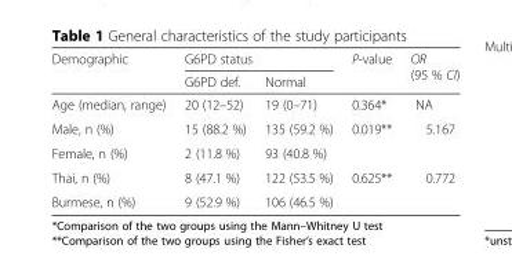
<table><thead><tr><td rowspan="2">Demographic</td><td colspan="2">G6PD status</td><td rowspan="2">P-value</td><td rowspan="2">OR (95 % CI)</td></tr><tr><td>G6PD def.</td><td>Normal</td></tr></thead><tbody><tr><td>Age (median, range)</td><td>20 (12–52)</td><td>19 (0–71)</td><td>0.364*</td><td>NA</td></tr><tr><td>Male, n (%)</td><td>15 (88.2 %)</td><td>135 (59.2 %)</td><td rowspan="2">0.019**</td><td rowspan="2">5.167</td></tr><tr><td>Female, n (%)</td><td>2 (11.8 %)</td><td>93 (40.8 %)</td></tr><tr><td>Thai, n (%)</td><td>8 (47.1 %)</td><td>122 (53.5 %)</td><td rowspan="2">0.625**</td><td rowspan="2">0.772</td></tr><tr><td>Burmese, n (%)</td><td>9 (52.9 %)</td><td>106 (46.5 %)</td></tr></tbody></table>